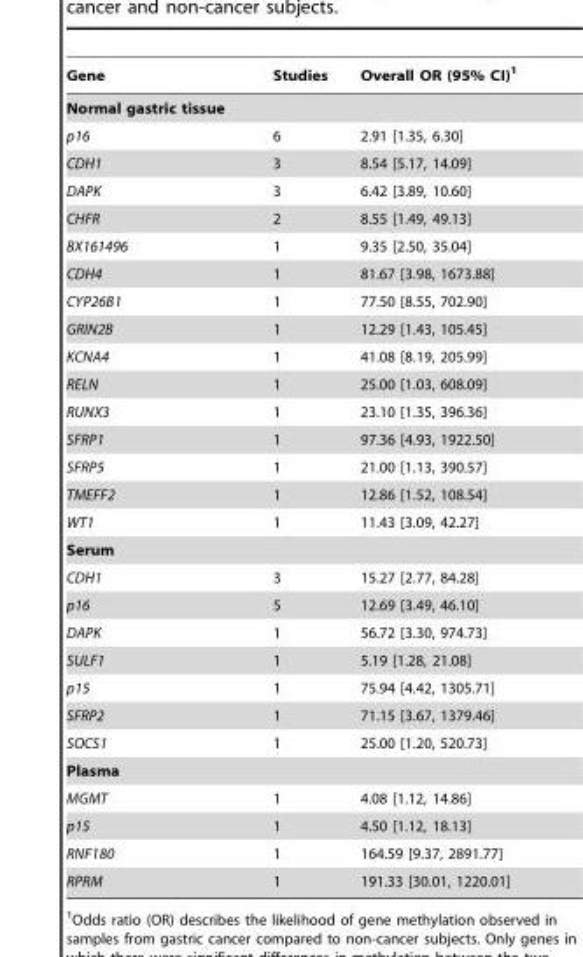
<table><thead><tr><td>Gene</td><td>Studies</td><td>Overall OR (95% CI)<sup>1</sup></td></tr></thead><tbody><tr><td colspan="3">Normal gastric tissue</td></tr><tr><td>p16</td><td>6</td><td>2.91 [1.35, 6.30]</td></tr><tr><td>CDH1</td><td>3</td><td>8.54 [5.17, 14.09]</td></tr><tr><td>DAPK</td><td>3</td><td>6.42 [3.89, 10.60]</td></tr><tr><td>CHFR</td><td>2</td><td>8.55 [1.49, 49.13]</td></tr><tr><td>BX161496</td><td>1</td><td>9.35 [2.50, 35.04]</td></tr><tr><td>CDH4</td><td>1</td><td>81.67 [3.98, 1673.88]</td></tr><tr><td>CYP26B1</td><td>1</td><td>77.50 [8.55, 702.90]</td></tr><tr><td>GRIN2B</td><td>1</td><td>12.29 [1.43, 105.45]</td></tr><tr><td>KCNA4</td><td>1</td><td>41.08 [8.19, 205.99]</td></tr><tr><td>RELN</td><td>1</td><td>25.00 [1.03, 608.09]</td></tr><tr><td>RUNX3</td><td>1</td><td>23.10 [1.35, 396.36]</td></tr><tr><td>SFRP1</td><td>1</td><td>97.36 [4.93, 1922.50]</td></tr><tr><td>SFRP5</td><td>1</td><td>21.00 [1.13, 390.57]</td></tr><tr><td>TMEFF2</td><td>1</td><td>12.86 [1.52, 108.54]</td></tr><tr><td>WT1</td><td>1</td><td>11.43 [3.09, 42.27]</td></tr><tr><td colspan="3">Serum</td></tr><tr><td>CDH1</td><td>3</td><td>15.27 [2.77, 84.28]</td></tr><tr><td>p16</td><td>5</td><td>12.69 [3.49, 46.10]</td></tr><tr><td>DAPK</td><td>1</td><td>56.72 [3.30, 974.73]</td></tr><tr><td>SULF1</td><td>1</td><td>5.19 [1.28, 21.08]</td></tr><tr><td>p15</td><td>1</td><td>75.94 [4.42, 1305.71]</td></tr><tr><td>SFRP2</td><td>1</td><td>71.15 [3.67, 1379.46]</td></tr><tr><td>SOCS1</td><td>1</td><td>25.00 [1.20, 520.73]</td></tr><tr><td colspan="3">Plasma</td></tr><tr><td>MGMT</td><td>1</td><td>4.08 [1.12, 14.86]</td></tr><tr><td>p15</td><td>1</td><td>4.50 [1.12, 18.13]</td></tr><tr><td>RNF180</td><td>1</td><td>164.59 [9.37, 2891.77]</td></tr><tr><td>RPRM</td><td>1</td><td>191.33 [30.01, 1220.01]</td></tr></tbody></table>